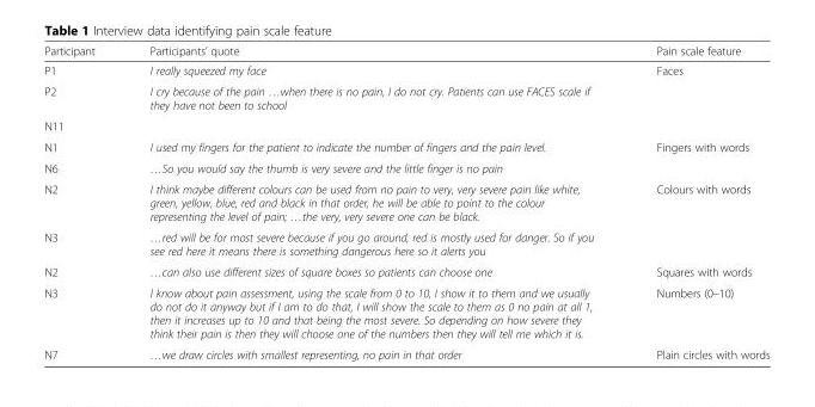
<table><thead><tr><td>Participant</td><td>Participants’ quote</td><td>Pain scale feature</td></tr></thead><tbody><tr><td>P1</td><td>I really squeezed my face</td><td rowspan="2">Faces</td></tr><tr><td>P2</td><td>I cry because of the pain …when there is no pain, I do not cry. Patients can use FACES scale if they have not been to school</td></tr><tr><td colspan="3">N11</td></tr><tr><td>N1</td><td>I used my fingers for the patient to indicate the number of fingers and the pain level.</td><td rowspan="2">Fingers with words</td></tr><tr><td>N6</td><td>…So you would say the thumb is very severe and the little finger is no pain</td></tr><tr><td>N2</td><td>I think maybe different colours can be used from no pain to very, very severe pain like white, green, yellow, blue, red and black in that order, he will be able to point to the colour representing the level of pain; …the very, very severe one can be black.</td><td rowspan="2">Colours with words</td></tr><tr><td>N3</td><td>…red will be for most severe because if you go around, red is mostly used for danger. So if you see red here it means there is something dangerous here so it alerts you</td></tr><tr><td>N2</td><td>…can also use different sizes of square boxes so patients can choose one</td><td>Squares with words</td></tr><tr><td>N3</td><td>I know about pain assessment, using the scale from 0 to 10, I show it to them and we usually do not do it anyway but if I am to do that, I will show the scale to them as 0 no pain at all 1, then it increases up to 10 and that being the most severe. So depending on how severe they think their pain is then they will choose one of the numbers then they will tell me which it is.</td><td>Numbers (0–10)</td></tr><tr><td>N7</td><td>…we draw circles with smallest representing, no pain in that order</td><td>Plain circles with words</td></tr></tbody></table>